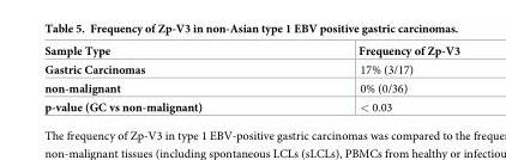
<table><thead><tr><td>Sample Type</td><td>Frequency of Zp-V3</td></tr></thead><tbody><tr><td>Gastric Carcinomas</td><td>17% (3/17)</td></tr><tr><td>non-malignant</td><td>0% (0/36)</td></tr><tr><td>p-value (GC vs non-malignant)</td><td>&lt; 0.03</td></tr></tbody></table>